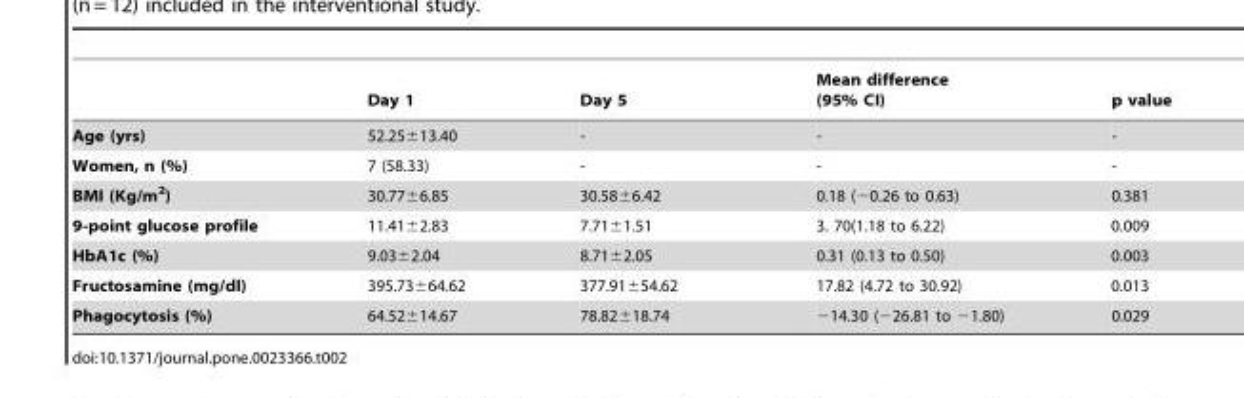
<table><thead><tr><td></td><td>Day 1</td><td>Day 5</td><td>Mean difference (95% CI)</td><td>p value</td></tr></thead><tbody><tr><td>Age (yrs)</td><td>52.25±13.40</td><td>-</td><td>-</td><td>-</td></tr><tr><td>Women, n (%)</td><td>7 (58.33)</td><td>-</td><td>-</td><td>-</td></tr><tr><td>BMI (Kg/m<sup>2</sup>)</td><td>30.77±6.85</td><td>30.58±6.42</td><td>0.18 (−0.26 to 0.63)</td><td>0.381</td></tr><tr><td>9-point glucose profile</td><td>11.41±2.83</td><td>7.71±1.51</td><td>3. 70(1.18 to 6.22)</td><td>0.009</td></tr><tr><td>HbA1c (%)</td><td>9.03±2.04</td><td>8.71±2.05</td><td>0.31 (0.13 to 0.50)</td><td>0.003</td></tr><tr><td>Fructosamine (mg/dl)</td><td>395.73±64.62</td><td>377.91±54.62</td><td>17.82 (4.72 to 30.92)</td><td>0.013</td></tr><tr><td>Phagocytosis (%)</td><td>64.52±14.67</td><td>78.82±18.74</td><td>−14.30 (−26.81 to −1.80)</td><td>0.029</td></tr></tbody></table>